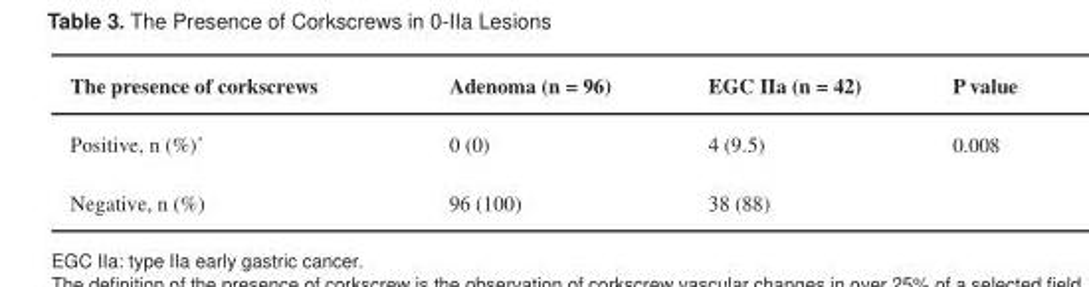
<table><thead><tr><td>The presence of corkscrews</td><td>Adenoma (n = 96)</td><td>EGC IIa (n = 42)</td><td>P value</td></tr></thead><tbody><tr><td>Positive, n (%)*</td><td>0 (0)</td><td>4 (9.5)</td><td>0.008</td></tr><tr><td>Negative, n (%)</td><td>96 (100)</td><td>38 (88)</td><td></td></tr></tbody></table>